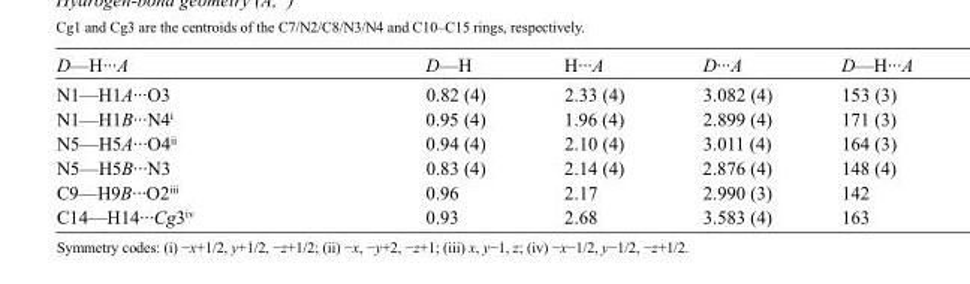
<table><tbody><tr><td>D—H···A</td><td>D—H</td><td>H···A</td><td>D···A</td><td>D—H···A</td></tr><tr><td>N1—H1A···O3</td><td>0.82 (4)</td><td>2.33 (4)</td><td>3.082 (4)</td><td>153 (3)</td></tr><tr><td>N1—H1B···N4<sup>i</sup></td><td>0.95 (4)</td><td>1.96 (4)</td><td>2.899 (4)</td><td>171 (3)</td></tr><tr><td>N5—H5A···O4<sup>ii</sup></td><td>0.94 (4)</td><td>2.10 (4)</td><td>3.011 (4)</td><td>164 (3)</td></tr><tr><td>N5—H5B···N3</td><td>0.83 (4)</td><td>2.14 (4)</td><td>2.876 (4)</td><td>148 (4)</td></tr><tr><td>C9—H9B···O2<sup>iii</sup></td><td>0.96</td><td>2.17</td><td>2.990 (3)</td><td>142</td></tr><tr><td>C14—H14···Cg3<sup>iv</sup></td><td>0.93</td><td>2.68</td><td>3.583 (4)</td><td>163</td></tr></tbody></table>